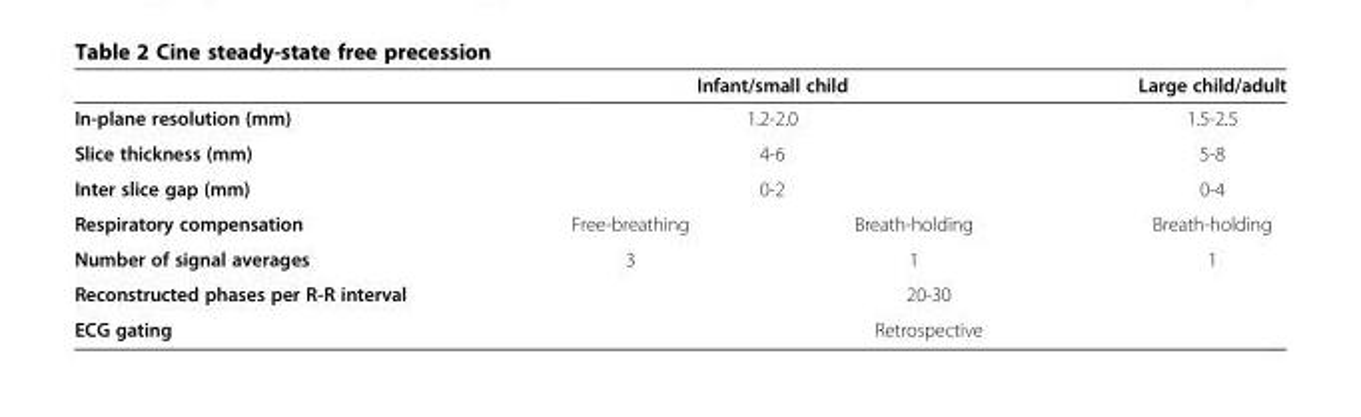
<table><thead><tr><td></td><td colspan="2">Infant/small child</td><td>Large child/adult</td></tr></thead><tbody><tr><td>In-plane resolution (mm)</td><td colspan="2">1.2-2.0</td><td>1.5-2.5</td></tr><tr><td>Slice thickness (mm)</td><td colspan="2">4-6</td><td>5-8</td></tr><tr><td>Inter slice gap (mm)</td><td colspan="2">0-2</td><td>0-4</td></tr><tr><td>Respiratory compensation</td><td>Free-breathing</td><td>Breath-holding</td><td>Breath-holding</td></tr><tr><td>Number of signal averages</td><td>3</td><td>1</td><td>1</td></tr><tr><td>Reconstructed phases per R-R interval</td><td colspan="3">20-30</td></tr><tr><td>ECG gating</td><td colspan="3">Retrospective</td></tr></tbody></table>